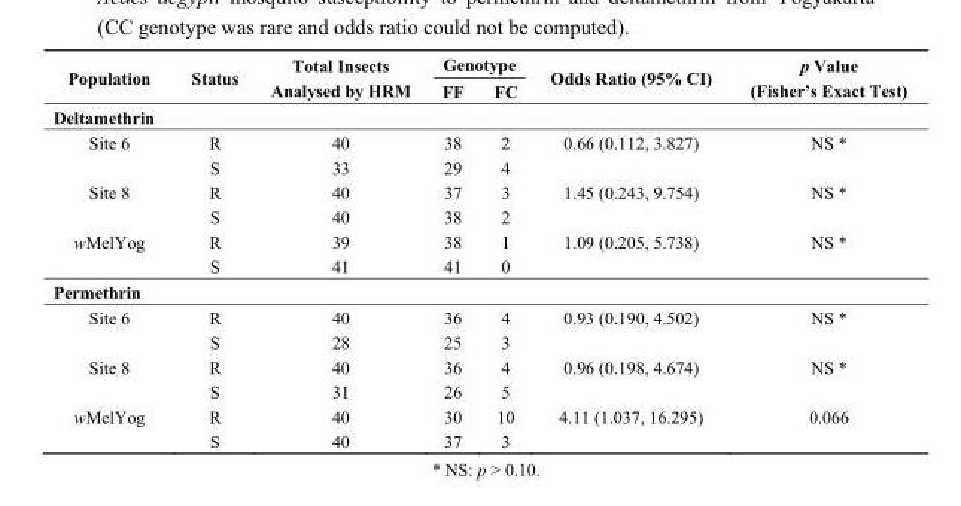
<table><thead><tr><td rowspan="2">Population</td><td rowspan="2">Status</td><td rowspan="2">Total Insects Analysed by HRM</td><td colspan="2">Genotype</td><td rowspan="2">Odds Ratio (95% CI)</td><td rowspan="2">p Value (Fisher’s Exact Test)</td></tr><tr><td>FF</td><td>FC</td></tr></thead><tbody><tr><td colspan="7">Deltamethrin</td></tr><tr><td rowspan="2">Site 6</td><td>R</td><td>40</td><td>38</td><td>2</td><td>0.66 (0.112, 3.827)</td><td>NS *</td></tr><tr><td>S</td><td>33</td><td>29</td><td>4</td><td></td><td></td></tr><tr><td rowspan="2">Site 8</td><td>R</td><td>40</td><td>37</td><td>3</td><td>1.45 (0.243, 9.754)</td><td>NS *</td></tr><tr><td>S</td><td>40</td><td>38</td><td>2</td><td></td><td></td></tr><tr><td rowspan="2">wMelYog</td><td>R</td><td>39</td><td>38</td><td>1</td><td>1.09 (0.205, 5.738)</td><td>NS *</td></tr><tr><td>S</td><td>41</td><td>41</td><td>0</td><td></td><td></td></tr><tr><td colspan="7">Permethrin</td></tr><tr><td rowspan="2">Site 6</td><td>R</td><td>40</td><td>36</td><td>4</td><td>0.93 (0.190, 4.502)</td><td>NS *</td></tr><tr><td>S</td><td>28</td><td>25</td><td>3</td><td></td><td></td></tr><tr><td rowspan="2">Site 8</td><td>R</td><td>40</td><td>36</td><td>4</td><td>0.96 (0.198, 4.674)</td><td>NS *</td></tr><tr><td>S</td><td>31</td><td>26</td><td>5</td><td></td><td></td></tr><tr><td rowspan="2">wMelYog</td><td>R</td><td>40</td><td>30</td><td>10</td><td>4.11 (1.037, 16.295)</td><td>0.066</td></tr><tr><td>S</td><td>40</td><td>37</td><td>3</td><td></td><td></td></tr></tbody></table>